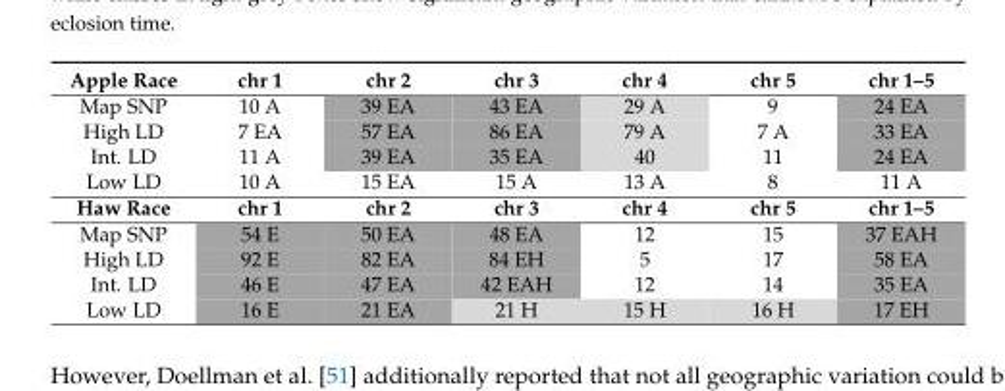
<table><tbody><tr><td>Apple Race</td><td>chr 1</td><td>chr 2</td><td>chr 3</td><td>chr 4</td><td>chr 5</td><td>chr 1–5</td></tr><tr><td>Map SNP</td><td>10 A</td><td>39 EA</td><td>43 EA</td><td>29 A</td><td>9</td><td>24 EA</td></tr><tr><td>High LD</td><td>7 EA</td><td>57 EA</td><td>86 EA</td><td>79 A</td><td>7 A</td><td>33 EA</td></tr><tr><td>Int. LD</td><td>11 A</td><td>39 EA</td><td>35 EA</td><td>40</td><td>11</td><td>24 EA</td></tr><tr><td>Low LD</td><td>10 A</td><td>15 EA</td><td>15 A</td><td>13 A</td><td>8</td><td>11 A</td></tr><tr><td>Haw Race</td><td>chr 1</td><td>chr 2</td><td>chr 3</td><td>chr 4</td><td>chr 5</td><td>chr 1–5</td></tr><tr><td>Map SNP</td><td>54 E</td><td>50 EA</td><td>48 EA</td><td>12</td><td>15</td><td>37 EAH</td></tr><tr><td>High LD</td><td>92 E</td><td>82 EA</td><td>84 EH</td><td>5</td><td>17</td><td>58 EA</td></tr><tr><td>Int. LD</td><td>46 E</td><td>47 EA</td><td>42 EAH</td><td>12</td><td>14</td><td>35 EA</td></tr><tr><td>Low LD</td><td>16 E</td><td>21 EA</td><td>21 H</td><td>15 H</td><td>16 H</td><td>17 EH</td></tr></tbody></table>